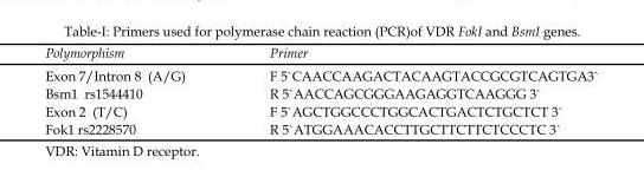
<table><thead><tr><td>Polymorphism</td><td>Primer</td></tr></thead><tbody><tr><td>Exon 7/Intron 8 (A/G)</td><td>F 5`CAACCAAGACTACAAGTACCGCGTCAGTGA3`</td></tr><tr><td>Bsm1 rs1544410</td><td>R 5`AACCAGCGGGAAGAGGTCAAGGG 3`</td></tr><tr><td>Exon 2 (T/C)</td><td>F 5`AGCTGGCCCTGGCACTGACTCTGCTCT 3`</td></tr><tr><td>Fok1 rs2228570</td><td>R 5`ATGGAAACACCTTGCTTCTTCTCCCTC 3`</td></tr></tbody></table>